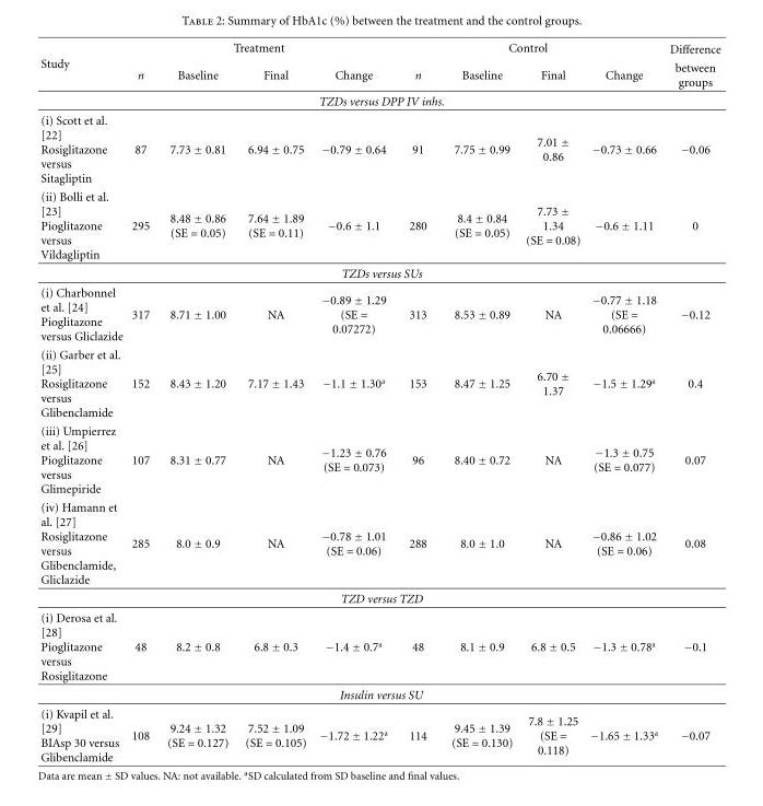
<table><thead><tr><td rowspan="2">Study</td><td colspan="4">Treatment</td><td colspan="4">Control</td><td rowspan="2">Difference between groups</td></tr><tr><td>n</td><td>Baseline</td><td>Final</td><td>Change</td><td>n</td><td>Baseline</td><td>Final</td><td>Change</td></tr></thead><tbody><tr><td></td><td></td><td></td><td></td><td colspan="2">TZDs versus DPP IV inhs.</td><td></td><td></td><td></td><td></td></tr><tr><td>(i) Scott et al. [22] Rosiglitazone versus Sitagliptin</td><td>87</td><td>7.73 ± 0.81</td><td>6.94 ± 0.75</td><td>−0.79 ± 0.64</td><td>91</td><td>7.75 ± 0.99</td><td>7.01 ± 0.86</td><td>−0.73 ± 0.66</td><td>−0.06</td></tr><tr><td rowspan="2">(ii) Bolli et al. [23] Pioglitazone versus Vildagliptin</td><td>295</td><td>8.48 ± 0.86 (SE = 0.05)</td><td>7.64 ± 1.89 (SE = 0.11)</td><td>−0.6 ± 1.1</td><td>280</td><td>8.4 ± 0.84 (SE = 0.05)</td><td>7.73 ± 1.34 (SE = 0.08)</td><td>−0.6 ± 1.11</td><td>0</td></tr><tr><td></td><td></td><td></td><td colspan="2">TZDs versus SUs</td><td></td><td></td><td></td><td></td></tr><tr><td>(i) Charbonnel et al. [24] Pioglitazone versus Gliclazide</td><td>317</td><td>8.71 ± 1.00</td><td>NA</td><td>−0.89 ± 1.29 (SE = 0.07272)</td><td>313</td><td>8.53 ± 0.89</td><td>NA</td><td>−0.77 ± 1.18 (SE = 0.06666)</td><td>−0.12</td></tr><tr><td>(ii) Garber et al. [25] Rosiglitazone versus Glibenclamide</td><td>152</td><td>8.43 ± 1.20</td><td>7.17 ± 1.43</td><td>−1.1 ± 1.30<sup>a</sup></td><td>153</td><td>8.47 ± 1.25</td><td>6.70 ± 1.37</td><td>−1.5 ± 1.29<sup>a</sup></td><td>0.4</td></tr><tr><td>(iii) Umpierrez et al. [26] Pioglitazone versus Glimepiride</td><td>107</td><td>8.31 ± 0.77</td><td>NA</td><td>−1.23 ± 0.76 (SE = 0.073)</td><td>96</td><td>8.40 ± 0.72</td><td>NA</td><td>−1.3 ± 0.75 (SE = 0.077)</td><td>0.07</td></tr><tr><td rowspan="2">(iv) Hamann et al. [27] Rosiglitazone versus Glibenclamide, Gliclazide</td><td>285</td><td>8.0 ± 0.9</td><td>NA</td><td>−0.78 ± 1.01 (SE = 0.06)</td><td>288</td><td>8.0 ± 1.0</td><td>NA</td><td>−0.86 ± 1.02 (SE = 0.06)</td><td>0.08</td></tr><tr><td></td><td></td><td></td><td colspan="2">TZD versus TZD</td><td></td><td></td><td></td><td></td></tr><tr><td rowspan="2">(i) Derosa et al. [28] Pioglitazone versus Rosiglitazone</td><td>48</td><td>8.2 ± 0.8</td><td>6.8 ± 0.3</td><td>−1.4 ± 0.7<sup>a</sup></td><td>48</td><td>8.1 ± 0.9</td><td>6.8 ± 0.5</td><td>−1.3 ± 0.78<sup>a</sup></td><td>−0.1</td></tr><tr><td></td><td></td><td></td><td colspan="2">Insulin versus SU</td><td></td><td></td><td></td><td></td></tr><tr><td>(i) Kvapil et al. [29] BIAsp 30 versus Glibenclamide</td><td>108</td><td>9.24 ± 1.32 (SE = 0.127)</td><td>7.52 ± 1.09 (SE = 0.105)</td><td>−1.72 ± 1.22<sup>a</sup></td><td>114</td><td>9.45 ± 1.39 (SE = 0.130)</td><td>7.8 ± 1.25 (SE = 0.118)</td><td>−1.65 ± 1.33<sup>a</sup></td><td>−0.07</td></tr></tbody></table>